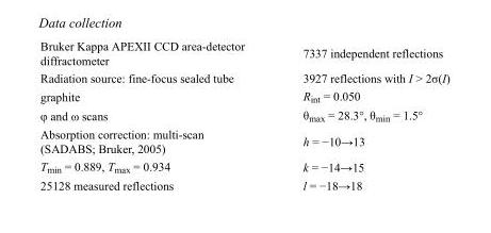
<table><tbody><tr><td>Bruker Kappa APEXII CCD area-detector diffractometer</td><td>7337 independent reflections</td></tr><tr><td>Radiation source: fine-focus sealed tube</td><td>3927 reflections with I &gt; 2σ(I)</td></tr><tr><td>graphite</td><td>R<sub>int</sub> = 0.050</td></tr><tr><td>φ and ω scans</td><td>θ<sub>max</sub> = 28.3°, θ<sub>min</sub> = 1.5°</td></tr><tr><td>Absorption correction: multi-scan (SADABS; Bruker, 2005)</td><td>h = −10→13</td></tr><tr><td>T<sub>min</sub> = 0.889, T<sub>max</sub> = 0.934</td><td>k = −14→15</td></tr><tr><td>25128 measured reflections</td><td>l = −18→18</td></tr></tbody></table>